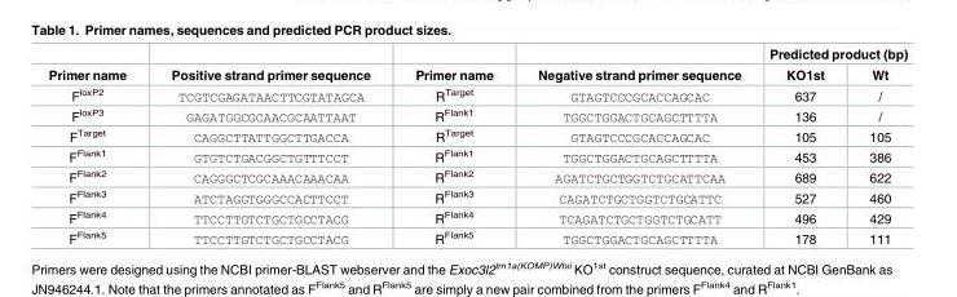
<table><thead><tr><td rowspan="2">Primer name</td><td rowspan="2">Positive strand primer sequence</td><td rowspan="2">Primer name</td><td rowspan="2">Negative strand primer sequence</td><td colspan="2">Predicted product (bp)</td></tr><tr><td>KO1st</td><td>Wt</td></tr></thead><tbody><tr><td>F<sup>loxP2</sup></td><td>TCGTCGAGATAACTTCGTATAGCA</td><td>R<sup>Target</sup></td><td>GTAGTCCCGCACCAGCAC</td><td>637</td><td>/</td></tr><tr><td>F<sup>loxP3</sup></td><td>GAGATGGCGCAACGCAATTAAT</td><td>R<sup>Flank1</sup></td><td>TGGCTGGACTGCAGCTTTTA</td><td>136</td><td>/</td></tr><tr><td>F<sup>Target</sup></td><td>CAGGCTTATTGGCTTGACCA</td><td>R<sup>Target</sup></td><td>GTAGTCCCGCACCAGCAC</td><td>105</td><td>105</td></tr><tr><td>F<sup>Flank1</sup></td><td>GTGTCTGACGGCTGTTTCCT</td><td>R<sup>Flank1</sup></td><td>TGGCTGGACTGCAGCTTTTA</td><td>453</td><td>386</td></tr><tr><td>F<sup>Flank2</sup></td><td>CAGGGCTCGCAAACAAACAA</td><td>R<sup>Flank2</sup></td><td>AGATCTGCTGGTCTGCATTCAA</td><td>689</td><td>622</td></tr><tr><td>F<sup>Flank3</sup></td><td>ATCTAGGTGGGCCACTTCCT</td><td>R<sup>Flank3</sup></td><td>CAGATCTGCTGGTCTGCATTC</td><td>527</td><td>460</td></tr><tr><td>F<sup>Flank4</sup></td><td>TTCCTTGTCTGCTGCCTACG</td><td>R<sup>Flank4</sup></td><td>TCAGATCTGCTGGTCTGCATT</td><td>496</td><td>429</td></tr><tr><td>F<sup>Flank5</sup></td><td>TTCCTTGTCTGCTGCCTACG</td><td>R<sup>Flank5</sup></td><td>TGGCTGGACTGCAGCTTTTA</td><td>178</td><td>111</td></tr></tbody></table>